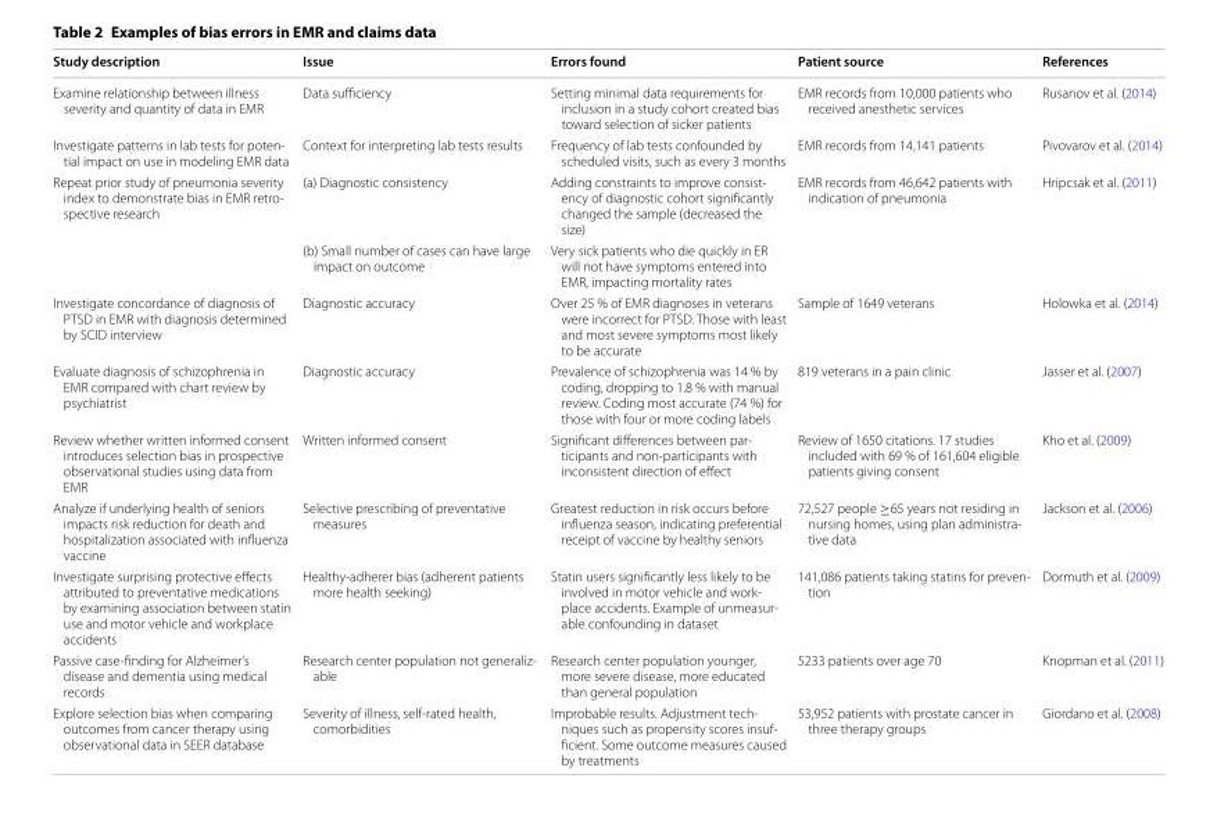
<table><thead><tr><td>Study description</td><td>Issue</td><td>Errors found</td><td>Patient source</td><td>References</td></tr></thead><tbody><tr><td>Examine relationship between illness severity and quantity of data in EMR</td><td>Data sufficiency</td><td>Setting minimal data requirements for inclusion in a study cohort created bias toward selection of sicker patients</td><td>EMR records from 10,000 patients who received anesthetic services</td><td>Rusanov et al. (2014)</td></tr><tr><td>Investigate patterns in lab tests for poten- tial impact on use in modeling EMR data</td><td>Context for interpreting lab tests results</td><td>Frequency of lab tests confounded by scheduled visits, such as every 3 months</td><td>EMR records from 14,141 patients</td><td>Pivovarov et al. (2014)</td></tr><tr><td rowspan="2">Repeat prior study of pneumonia severity index to demonstrate bias in EMR retro- spective research</td><td>(a) Diagnostic consistency</td><td>Adding constraints to improve consist- ency of diagnostic cohort significantly changed the sample (decreased the size)</td><td>EMR records from 46,642 patients with indication of pneumonia</td><td>Hripcsak et al. (2011)</td></tr><tr><td>(b) Small number of cases can have large impact on outcome</td><td>Very sick patients who die quickly in ER will not have symptoms entered into EMR, impacting mortality rates</td><td></td><td></td></tr><tr><td>Investigate concordance of diagnosis of PTSD in EMR with diagnosis determined by SCID interview</td><td>Diagnostic accuracy</td><td>Over 25 % of EMR diagnoses in veterans were incorrect for PTSD. Those with least and most severe symptoms most likely to be accurate</td><td>Sample of 1649 veterans</td><td>Holowka et al. (2014)</td></tr><tr><td>Evaluate diagnosis of schizophrenia in EMR compared with chart review by psychiatrist</td><td>Diagnostic accuracy</td><td>Prevalence of schizophrenia was 14 % by coding, dropping to 1.8 % with manual review. Coding most accurate (74 %) for those with four or more coding labels</td><td>819 veterans in a pain clinic</td><td>Jasser et al. (2007)</td></tr><tr><td>Review whether written informed consent introduces selection bias in prospective observational studies using data from EMR</td><td>Written informed consent</td><td>Significant differences between par- ticipants and non-participants with inconsistent direction of effect</td><td>Review of 1650 citations. 17 studies included with 69 % of 161,604 eligible patients giving consent</td><td>Kho et al. (2009)</td></tr><tr><td>Analyze if underlying health of seniors impacts risk reduction for death and hospitalization associated with influenza vaccine</td><td>Selective prescribing of preventative measures</td><td>Greatest reduction in risk occurs before influenza season, indicating preferential receipt of vaccine by healthy seniors</td><td>72,527 people ≥65 years not residing in nursing homes, using plan administra- tive data</td><td>Jackson et al. (2006)</td></tr><tr><td>Investigate surprising protective effects attributed to preventative medications by examining association between statin use and motor vehicle and workplace accidents</td><td>Healthy-adherer bias (adherent patients more health seeking)</td><td>Statin users significantly less likely to be involved in motor vehicle and work- place accidents. Example of unmeasur- able confounding in dataset</td><td>141,086 patients taking statins for preven- tion</td><td>Dormuth et al. (2009)</td></tr><tr><td>Passive case-finding for Alzheimer’s disease and dementia using medical records</td><td>Research center population not generaliz- able</td><td>Research center population younger, more severe disease, more educated than general population</td><td>5233 patients over age 70</td><td>Knopman et al. (2011)</td></tr><tr><td>Explore selection bias when comparing outcomes from cancer therapy using observational data in SEER database</td><td>Severity of illness, self-rated health, comorbidities</td><td>Improbable results. Adjustment tech- niques such as propensity scores insuf- ficient. Some outcome measures caused by treatments</td><td>53,952 patients with prostate cancer in three therapy groups</td><td>Giordano et al. (2008)</td></tr></tbody></table>